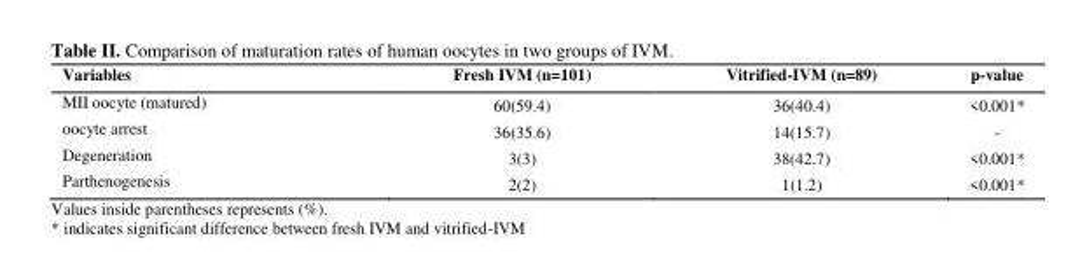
<table><thead><tr><td>Variables</td><td>Fresh IVM (n=101)</td><td>Vitrified-IVM (n=89)</td><td>p-value</td></tr></thead><tbody><tr><td>MII oocyte (matured)</td><td>60(59.4)</td><td>36(40.4)</td><td>&lt;0.001*</td></tr><tr><td>oocyte arrest</td><td>36(35.6)</td><td>14(15.7)</td><td>-</td></tr><tr><td>Degeneration</td><td>3(3)</td><td>38(42.7)</td><td>&lt;0.001*</td></tr><tr><td>Parthenogenesis</td><td>2(2)</td><td>1(1.2)</td><td>&lt;0.001*</td></tr></tbody></table>